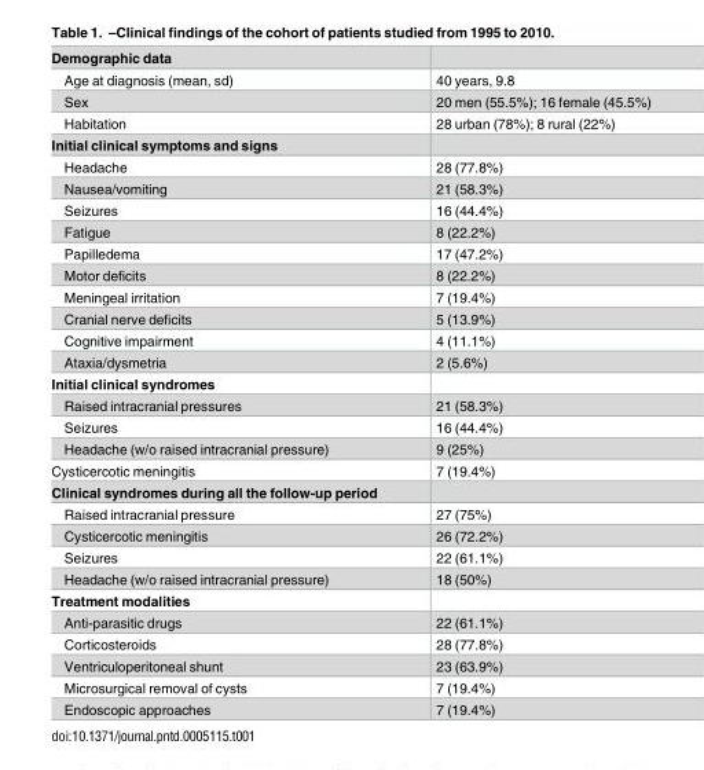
<table><thead><tr><td>Demographic data</td><td></td></tr></thead><tbody><tr><td>Age at diagnosis (mean, sd)</td><td>40 years, 9.8</td></tr><tr><td>Sex</td><td>20 men (55.5%); 16 female (45.5%)</td></tr><tr><td>Habitation</td><td>28 urban (78%); 8 rural (22%)</td></tr><tr><td colspan="2">Initial clinical symptoms and signs</td></tr><tr><td>Headache</td><td>28 (77.8%)</td></tr><tr><td>Nausea/vomiting</td><td>21 (58.3%)</td></tr><tr><td>Seizures</td><td>16 (44.4%)</td></tr><tr><td>Fatigue</td><td>8 (22.2%)</td></tr><tr><td>Papilledema</td><td>17 (47.2%)</td></tr><tr><td>Motor deficits</td><td>8 (22.2%)</td></tr><tr><td>Meningeal irritation</td><td>7 (19.4%)</td></tr><tr><td>Cranial nerve deficits</td><td>5 (13.9%)</td></tr><tr><td>Cognitive impairment</td><td>4 (11.1%)</td></tr><tr><td>Ataxia/dysmetria</td><td>2 (5.6%)</td></tr><tr><td colspan="2">Initial clinical syndromes</td></tr><tr><td>Raised intracranial pressures</td><td>21 (58.3%)</td></tr><tr><td>Seizures</td><td>16 (44.4%)</td></tr><tr><td>Headache (w/o raised intracranial pressure)</td><td>9 (25%)</td></tr><tr><td>Cysticercotic meningitis</td><td>7 (19.4%)</td></tr><tr><td colspan="2">Clinical syndromes during all the follow-up period</td></tr><tr><td>Raised intracranial pressure</td><td>27 (75%)</td></tr><tr><td>Cysticercotic meningitis</td><td>26 (72.2%)</td></tr><tr><td>Seizures</td><td>22 (61.1%)</td></tr><tr><td>Headache (w/o raised intracranial pressure)</td><td>18 (50%)</td></tr><tr><td colspan="2">Treatment modalities</td></tr><tr><td>Anti-parasitic drugs</td><td>22 (61.1%)</td></tr><tr><td>Corticosteroids</td><td>28 (77.8%)</td></tr><tr><td>Ventriculoperitoneal shunt</td><td>23 (63.9%)</td></tr><tr><td>Microsurgical removal of cysts</td><td>7 (19.4%)</td></tr><tr><td>Endoscopic approaches</td><td>7 (19.4%)</td></tr></tbody></table>